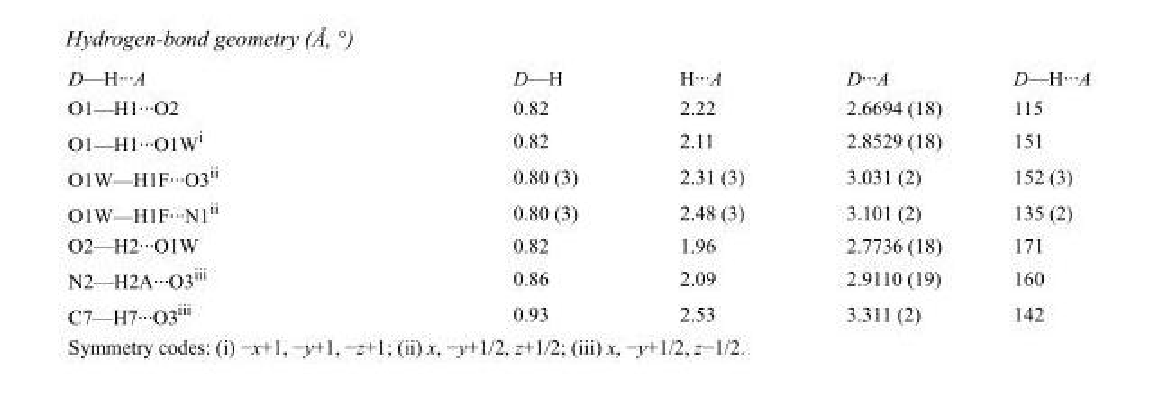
<table><tbody><tr><td>D—H···A</td><td>D—H</td><td>H···A</td><td>D···A</td><td>D—H···A</td></tr><tr><td>O1—H1···O2</td><td>0.82</td><td>2.22</td><td>2.6694 (18)</td><td>115</td></tr><tr><td>O1—H1···O1W<sup>i</sup></td><td>0.82</td><td>2.11</td><td>2.8529 (18)</td><td>151</td></tr><tr><td>O1W—H1F···O3<sup>ii</sup></td><td>0.80 (3)</td><td>2.31 (3)</td><td>3.031 (2)</td><td>152 (3)</td></tr><tr><td>O1W—H1F···N1<sup>ii</sup></td><td>0.80 (3)</td><td>2.48 (3)</td><td>3.101 (2)</td><td>135 (2)</td></tr><tr><td>O2—H2···O1W</td><td>0.82</td><td>1.96</td><td>2.7736 (18)</td><td>171</td></tr><tr><td>N2—H2A···O3<sup>iii</sup></td><td>0.86</td><td>2.09</td><td>2.9110 (19)</td><td>160</td></tr><tr><td>C7—H7···O3<sup>iii</sup></td><td>0.93</td><td>2.53</td><td>3.311 (2)</td><td>142</td></tr></tbody></table>